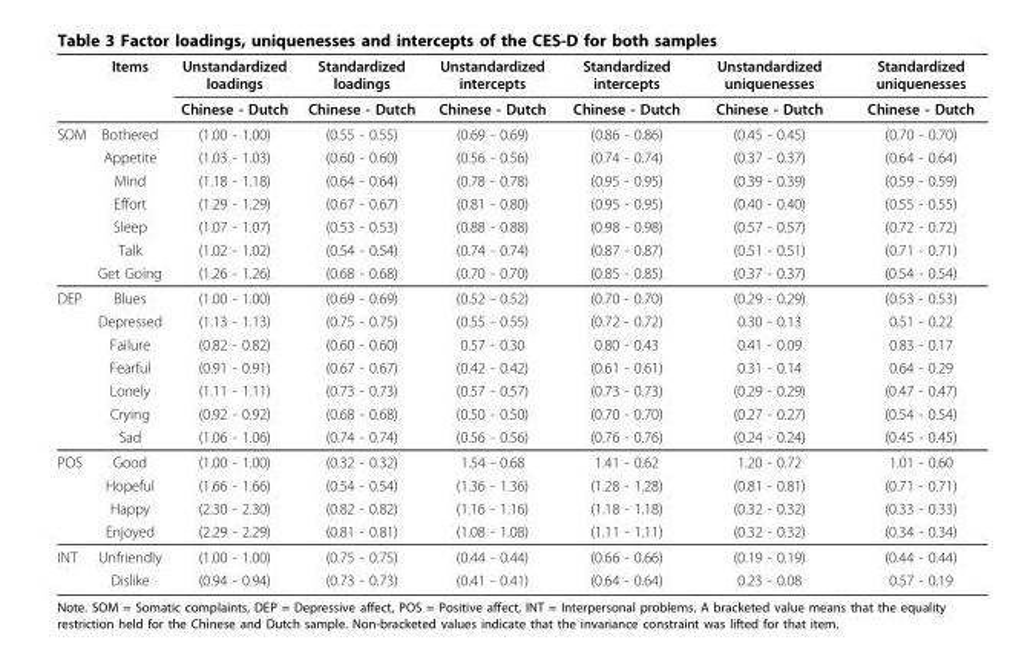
<table><thead><tr><td rowspan="2"></td><td rowspan="2">Items</td><td rowspan="2">Unstandardized loadings Chinese - Dutch</td><td rowspan="2">Standardized loadings Chinese - Dutch</td><td rowspan="2">Unstandardized intercepts Chinese - Dutch</td><td rowspan="2">Standardized intercepts Chinese - Dutch</td><td rowspan="2">Unstandardized uniquenesses Chinese - Dutch</td><td rowspan="2">Standardized uniquenesses Chinese - Dutch</td></tr><tr></tr></thead><tbody><tr><td rowspan="7">SOM</td><td>Bothered</td><td>(1.00 - 1.00)</td><td>(0.55 - 0.55)</td><td>(0.69 - 0.69)</td><td>(0.86 - 0.86)</td><td>(0.45 - 0.45)</td><td>(0.70 - 0.70)</td></tr><tr><td>Appetite</td><td>(1.03 - 1.03)</td><td>(0.60 - 0.60)</td><td>(0.56 - 0.56)</td><td>(0.74 - 0.74)</td><td>(0.37 - 0.37)</td><td>(0.64 - 0.64)</td></tr><tr><td>Mind</td><td>(1.18 - 1.18)</td><td>(0.64 - 0.64)</td><td>(0.78 - 0.78)</td><td>(0.95 - 0.95)</td><td>(0.39 - 0.39)</td><td>(0.59 - 0.59)</td></tr><tr><td>Effort</td><td>(1.29 - 1.29)</td><td>(0.67 - 0.67)</td><td>(0.81 - 0.80)</td><td>(0.95 - 0.95)</td><td>(0.40 - 0.40)</td><td>(0.55 - 0.55)</td></tr><tr><td>Sleep</td><td>(1.07 - 1.07)</td><td>(0.53 - 0.53)</td><td>(0.88 - 0.88)</td><td>(0.98 - 0.98)</td><td>(0.57 - 0.57)</td><td>(0.72 - 0.72)</td></tr><tr><td>Talk</td><td>(1.02 - 1.02)</td><td>(0.54 - 0.54)</td><td>(0.74 - 0.74)</td><td>(0.87 - 0.87)</td><td>(0.51 - 0.51)</td><td>(0.71 - 0.71)</td></tr><tr><td>Get Going</td><td>(1.26 - 1.26)</td><td>(0.68 - 0.68)</td><td>(0.70 - 0.70)</td><td>(0.85 - 0.85)</td><td>(0.37 - 0.37)</td><td>(0.54 - 0.54)</td></tr><tr><td rowspan="7">DEP</td><td>Blues</td><td>(1.00 - 1.00)</td><td>(0.69 - 0.69)</td><td>(0.52 - 0.52)</td><td>(0.70 - 0.70)</td><td>(0.29 - 0.29)</td><td>(0.53 - 0.53)</td></tr><tr><td>Depressed</td><td>(1.13 - 1.13)</td><td>(0.75 - 0.75)</td><td>(0.55 - 0.55)</td><td>(0.72 - 0.72)</td><td>0.30 - 0.13</td><td>0.51 - 0.22</td></tr><tr><td>Failure</td><td>(0.82 - 0.82)</td><td>(0.60 - 0.60)</td><td>0.57 - 0.30</td><td>0.80 - 0.43</td><td>0.41 - 0.09</td><td>0.83 - 0.17</td></tr><tr><td>Fearful</td><td>(0.91 - 0.91)</td><td>(0.67 - 0.67)</td><td>(0.42 - 0.42)</td><td>(0.61 - 0.61)</td><td>0.31 - 0.14</td><td>0.64 - 0.29</td></tr><tr><td>Lonely</td><td>(1.11 - 1.11)</td><td>(0.73 - 0.73)</td><td>(0.57 - 0.57)</td><td>(0.73 - 0.73)</td><td>(0.29 - 0.29)</td><td>(0.47 - 0.47)</td></tr><tr><td>Crying</td><td>(0.92 - 0.92)</td><td>(0.68 - 0.68)</td><td>(0.50 - 0.50)</td><td>(0.70 - 0.70)</td><td>(0.27 - 0.27)</td><td>(0.54 - 0.54)</td></tr><tr><td>Sad</td><td>(1.06 - 1.06)</td><td>(0.74 - 0.74)</td><td>(0.56 - 0.56)</td><td>(0.76 - 0.76)</td><td>(0.24 - 0.24)</td><td>(0.45 - 0.45)</td></tr><tr><td rowspan="4">POS</td><td>Good</td><td>(1.00 - 1.00)</td><td>(0.32 - 0.32)</td><td>1.54 - 0.68</td><td>1.41 - 0.62</td><td>1.20 - 0.72</td><td>1.01 - 0.60</td></tr><tr><td>Hopeful</td><td>(1.66 - 1.66)</td><td>(0.54 - 0.54)</td><td>(1.36 - 1.36)</td><td>(1.28 - 1.28)</td><td>(0.81 - 0.81)</td><td>(0.71 - 0.71)</td></tr><tr><td>Happy</td><td>(2.30 - 2.30)</td><td>(0.82 - 0.82)</td><td>(1.16 - 1.16)</td><td>(1.18 - 1.18)</td><td>(0.32 - 0.32)</td><td>(0.33 - 0.33)</td></tr><tr><td>Enjoyed</td><td>(2.29 - 2.29)</td><td>(0.81 - 0.81)</td><td>(1.08 - 1.08)</td><td>(1.11 - 1.11)</td><td>(0.32 - 0.32)</td><td>(0.34 - 0.34)</td></tr><tr><td rowspan="2">INT</td><td>Unfriendly</td><td>(1.00 - 1.00)</td><td>(0.75 - 0.75)</td><td>(0.44 - 0.44)</td><td>(0.66 - 0.66)</td><td>(0.19 - 0.19)</td><td>(0.44 - 0.44)</td></tr><tr><td>Dislike</td><td>(0.94 - 0.94)</td><td>(0.73 - 0.73)</td><td>(0.41 - 0.41)</td><td>(0.64 - 0.64)</td><td>0.23 - 0.08</td><td>0.57 - 0.19</td></tr></tbody></table>